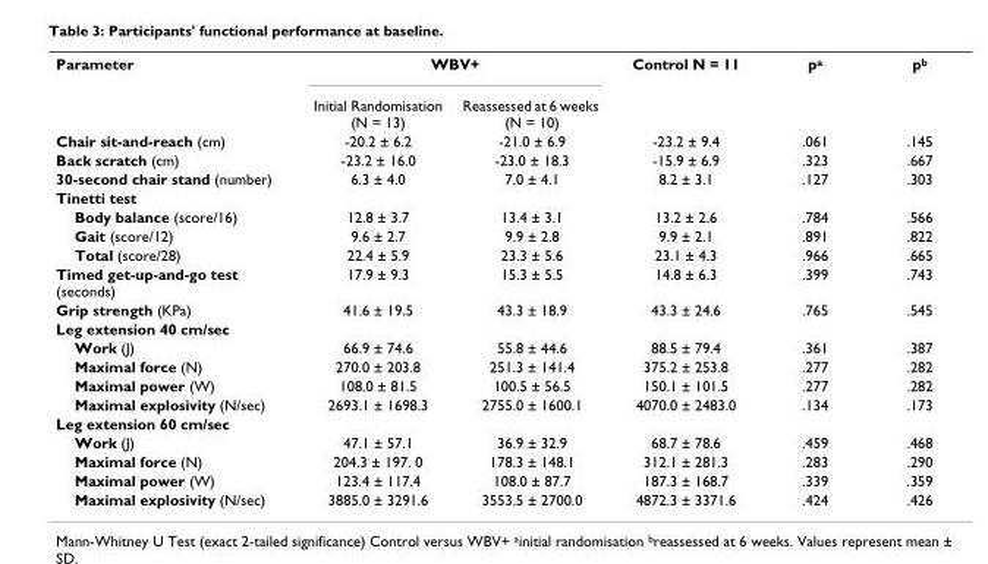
<table><tbody><tr><td rowspan="2">Parameter</td><td colspan="2">WBV+</td><td>Control N = 11</td><td>p<sup>a</sup></td><td>p<sup>b</sup></td></tr><tr><td>Initial Randomisation (N = 13)</td><td>Reassessed at 6 weeks (N = 10)</td><td></td><td></td><td></td></tr><tr><td>Chair sit-and-reach (cm)</td><td>-20.2 ± 6.2</td><td>-21.0 ± 6.9</td><td>-23.2 ± 9.4</td><td>.061</td><td>.145</td></tr><tr><td>Back scratch (cm)</td><td>-23.2 ± 16.0</td><td>-23.0 ± 18.3</td><td>-15.9 ± 6.9</td><td>.323</td><td>.667</td></tr><tr><td>30-second chair stand (number)</td><td>6.3 ± 4.0</td><td>7.0 ± 4.1</td><td>8.2 ± 3.1</td><td>.127</td><td>.303</td></tr><tr><td colspan="6">Tinetti test</td></tr><tr><td>Body balance (score/16)</td><td>12.8 ± 3.7</td><td>13.4 ± 3.1</td><td>13.2 ± 2.6</td><td>.784</td><td>.566</td></tr><tr><td>Gait (score/12)</td><td>9.6 ± 2.7</td><td>9.9 ± 2.8</td><td>9.9 ± 2.1</td><td>.891</td><td>.822</td></tr><tr><td>Total (score/28)</td><td>22.4 ± 5.9</td><td>23.3 ± 5.6</td><td>23.1 ± 4.3</td><td>.966</td><td>.665</td></tr><tr><td>Timed get-up-and-go test (seconds)</td><td>17.9 ± 9.3</td><td>15.3 ± 5.5</td><td>14.8 ± 6.3</td><td>.399</td><td>.743</td></tr><tr><td>Grip strength (KPa)</td><td>41.6 ± 19.5</td><td>43.3 ± 18.9</td><td>43.3 ± 24.6</td><td>.765</td><td>.545</td></tr><tr><td colspan="6">Leg extension 40 cm/sec</td></tr><tr><td>Work (J)</td><td>66.9 ± 74.6</td><td>55.8 ± 44.6</td><td>88.5 ± 79.4</td><td>.361</td><td>.387</td></tr><tr><td>Maximal force (N)</td><td>270.0 ± 203.8</td><td>251.3 ± 141.4</td><td>375.2 ± 253.8</td><td>.277</td><td>.282</td></tr><tr><td>Maximal power (W)</td><td>108.0 ± 81.5</td><td>100.5 ± 56.5</td><td>150.1 ± 101.5</td><td>.277</td><td>.282</td></tr><tr><td>Maximal explosivity (N/sec)</td><td>2693.1 ± 1698.3</td><td>2755.0 ± 1600.1</td><td>4070.0 ± 2483.0</td><td>.134</td><td>.173</td></tr><tr><td colspan="6">Leg extension 60 cm/sec</td></tr><tr><td>Work (J)</td><td>47.1 ± 57.1</td><td>36.9 ± 32.9</td><td>68.7 ± 78.6</td><td>.459</td><td>.468</td></tr><tr><td>Maximal force (N)</td><td>204.3 ± 197. 0</td><td>178.3 ± 148.1</td><td>312.1 ± 281.3</td><td>.283</td><td>.290</td></tr><tr><td>Maximal power (W)</td><td>123.4 ± 117.4</td><td>108.0 ± 87.7</td><td>187.3 ± 168.7</td><td>.339</td><td>.359</td></tr><tr><td>Maximal explosivity (N/sec)</td><td>3885.0 ± 3291.6</td><td>3553.5 ± 2700.0</td><td>4872.3 ± 3371.6</td><td>.424</td><td>.426</td></tr></tbody></table>